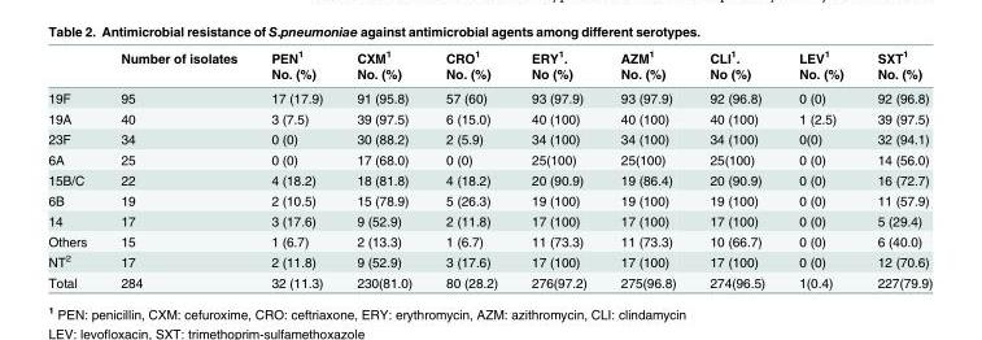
<table><thead><tr><td rowspan="2"></td><td rowspan="2">Number of isolates</td><td rowspan="2">PEN<sup>1</sup> No. (%)</td><td rowspan="2">CXM<sup>1</sup> No. (%)</td><td rowspan="2">CRO<sup>1</sup> No. (%)</td><td rowspan="2">ERY<sup>1</sup>. No (%)</td><td rowspan="2">AZM<sup>1</sup> No. (%)</td><td rowspan="2">CLI<sup>1</sup>. No (%)</td><td rowspan="2">LEV<sup>1</sup> No. (%)</td><td rowspan="2">SXT<sup>1</sup> No. (%)</td></tr><tr></tr></thead><tbody><tr><td>19F</td><td>95</td><td>17 (17.9)</td><td>91 (95.8)</td><td>57 (60)</td><td>93 (97.9)</td><td>93 (97.9)</td><td>92 (96.8)</td><td>0 (0)</td><td>92 (96.8)</td></tr><tr><td>19A</td><td>40</td><td>3 (7.5)</td><td>39 (97.5)</td><td>6 (15.0)</td><td>40 (100)</td><td>40 (100)</td><td>40 (100)</td><td>1 (2.5)</td><td>39 (97.5)</td></tr><tr><td>23F</td><td>34</td><td>0 (0)</td><td>30 (88.2)</td><td>2 (5.9)</td><td>34 (100)</td><td>34 (100)</td><td>34 (100)</td><td>0(0)</td><td>32 (94.1)</td></tr><tr><td>6A</td><td>25</td><td>0 (0)</td><td>17 (68.0)</td><td>0 (0)</td><td>25(100)</td><td>25(100)</td><td>25(100)</td><td>0 (0)</td><td>14 (56.0)</td></tr><tr><td>15B/C</td><td>22</td><td>4 (18.2)</td><td>18 (81.8)</td><td>4 (18.2)</td><td>20 (90.9)</td><td>19 (86.4)</td><td>20 (90.9)</td><td>0 (0)</td><td>16 (72.7)</td></tr><tr><td>6B</td><td>19</td><td>2 (10.5)</td><td>15 (78.9)</td><td>5 (26.3)</td><td>19 (100)</td><td>19 (100)</td><td>19 (100)</td><td>0 (0)</td><td>11 (57.9)</td></tr><tr><td>14</td><td>17</td><td>3 (17.6)</td><td>9 (52.9)</td><td>2 (11.8)</td><td>17 (100)</td><td>17 (100)</td><td>17 (100)</td><td>0 (0)</td><td>5 (29.4)</td></tr><tr><td>Others</td><td>15</td><td>1 (6.7)</td><td>2 (13.3)</td><td>1 (6.7)</td><td>11 (73.3)</td><td>11 (73.3)</td><td>10 (66.7)</td><td>0 (0)</td><td>6 (40.0)</td></tr><tr><td>NT<sup>2</sup></td><td>17</td><td>2 (11.8)</td><td>9 (52.9)</td><td>3 (17.6)</td><td>17 (100)</td><td>17 (100)</td><td>17 (100)</td><td>0 (0)</td><td>12 (70.6)</td></tr><tr><td>Total</td><td>284</td><td>32 (11.3)</td><td>230(81.0)</td><td>80 (28.2)</td><td>276(97.2)</td><td>275(96.8)</td><td>274(96.5)</td><td>1(0.4)</td><td>227(79.9)</td></tr></tbody></table>